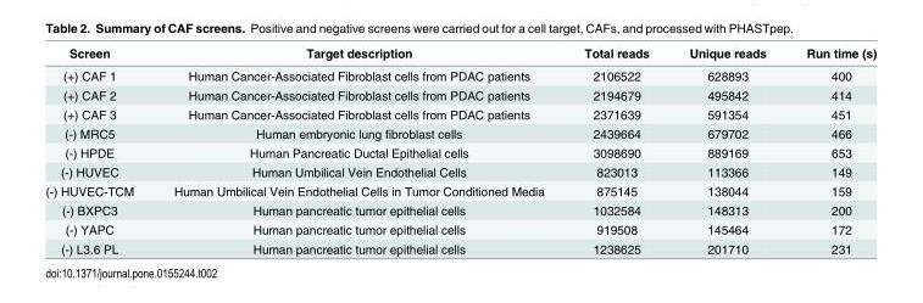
<table><thead><tr><td>Screen</td><td>Target description</td><td>Total reads</td><td>Unique reads</td><td>Run time (s)</td></tr></thead><tbody><tr><td>(+) CAF 1</td><td>Human Cancer-Associated Fibroblast cells from PDAC patients</td><td>2106522</td><td>628893</td><td>400</td></tr><tr><td>(+) CAF 2</td><td>Human Cancer-Associated Fibroblast cells from PDAC patients</td><td>2194679</td><td>495842</td><td>414</td></tr><tr><td>(+) CAF 3</td><td>Human Cancer-Associated Fibroblast cells from PDAC patients</td><td>2371639</td><td>591354</td><td>451</td></tr><tr><td>(-) MRC5</td><td>Human embryonic lung fibroblast cells</td><td>2439664</td><td>679702</td><td>466</td></tr><tr><td>(-) HPDE</td><td>Human Pancreatic Ductal Epithelial cells</td><td>3098690</td><td>889169</td><td>653</td></tr><tr><td>(-) HUVEC</td><td>Human Umbilical Vein Endothelial Cells</td><td>823013</td><td>113366</td><td>149</td></tr><tr><td>(-) HUVEC-TCM</td><td>Human Umbilical Vein Endothelial Cells in Tumor Conditioned Media</td><td>875145</td><td>138044</td><td>159</td></tr><tr><td>(-) BXPC3</td><td>Human pancreatic tumor epithelial cells</td><td>1032584</td><td>148313</td><td>200</td></tr><tr><td>(-) YAPC</td><td>Human pancreatic tumor epithelial cells</td><td>919508</td><td>145464</td><td>172</td></tr><tr><td>(-) L3.6 PL</td><td>Human pancreatic tumor epithelial cells</td><td>1238625</td><td>201710</td><td>231</td></tr></tbody></table>